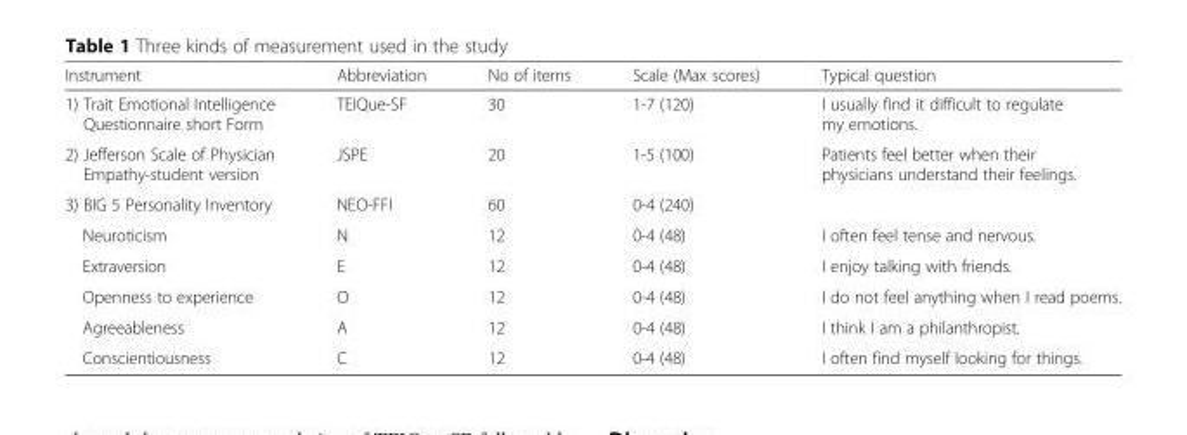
<table><thead><tr><td>Instrument</td><td>Abbreviation</td><td>No of items</td><td>Scale (Max scores)</td><td>Typical question</td></tr></thead><tbody><tr><td>1) Trait Emotional Intelligence Questionnaire short Form</td><td>TEIQue-SF</td><td>30</td><td>1-7 (120)</td><td>I usually find it difficult to regulate my emotions.</td></tr><tr><td>2) Jefferson Scale of Physician Empathy-student version</td><td>JSPE</td><td>20</td><td>1-5 (100)</td><td>Patients feel better when their physicians understand their feelings.</td></tr><tr><td>3) BIG 5 Personality Inventory</td><td>NEO-FFI</td><td>60</td><td>0-4 (240)</td><td></td></tr><tr><td>Neuroticism</td><td>N</td><td>12</td><td>0-4 (48)</td><td>I often feel tense and nervous.</td></tr><tr><td>Extraversion</td><td>E</td><td>12</td><td>0-4 (48)</td><td>I enjoy talking with friends.</td></tr><tr><td>Openness to experience</td><td>O</td><td>12</td><td>0-4 (48)</td><td>I do not feel anything when I read poems.</td></tr><tr><td>Agreeableness</td><td>A</td><td>12</td><td>0-4 (48)</td><td>I think I am a philanthropist.</td></tr><tr><td>Conscientiousness</td><td>C</td><td>12</td><td>0-4 (48)</td><td>I often find myself looking for things.</td></tr></tbody></table>